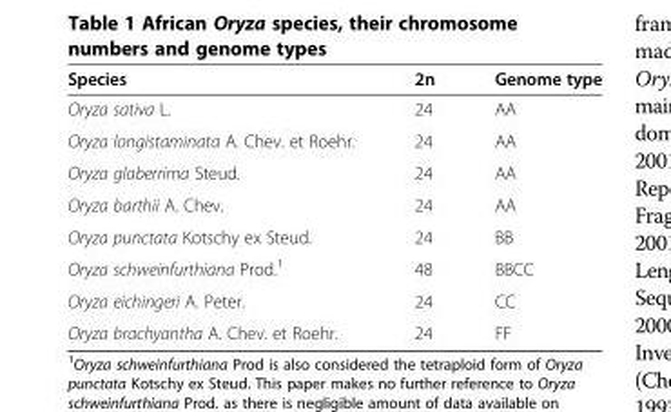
<table><thead><tr><td>Species</td><td>2n</td><td>Genome type</td></tr></thead><tbody><tr><td>Oryza sativa L.</td><td>24</td><td>AA</td></tr><tr><td>Oryza longistaminata A. Chev. et Roehr.</td><td>24</td><td>AA</td></tr><tr><td>Oryza glaberrima Steud.</td><td>24</td><td>AA</td></tr><tr><td>Oryza barthii A. Chev.</td><td>24</td><td>AA</td></tr><tr><td>Oryza punctata Kotschy ex Steud.</td><td>24</td><td>BB</td></tr><tr><td>Oryza schweinfurthiana Prod.<sup>1</sup></td><td>48</td><td>BBCC</td></tr><tr><td>Oryza eichingeri A. Peter.</td><td>24</td><td>CC</td></tr><tr><td>Oryza brachyantha A. Chev. et Roehr.</td><td>24</td><td>FF</td></tr></tbody></table>